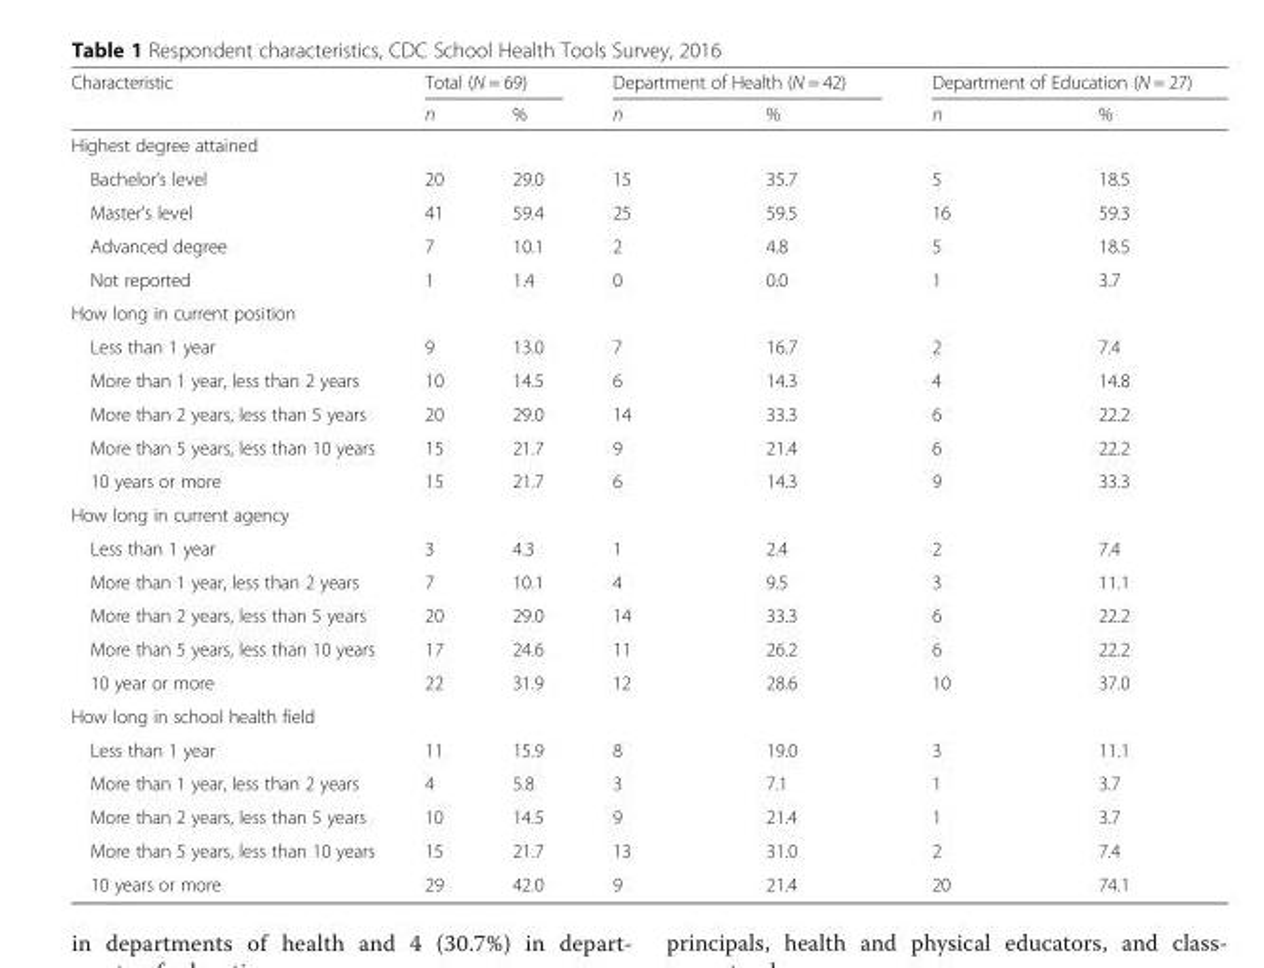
<table><thead><tr><td rowspan="2">Characteristic</td><td colspan="2">Total (N = 69)</td><td colspan="2">Department of Health (N = 42)</td><td colspan="2">Department of Education (N = 27)</td></tr><tr><td>n</td><td>%</td><td>n</td><td>%</td><td>n</td><td>%</td></tr></thead><tbody><tr><td colspan="7">Highest degree attained</td></tr><tr><td>Bachelor’s level</td><td>20</td><td>29.0</td><td>15</td><td>35.7</td><td>5</td><td>18.5</td></tr><tr><td>Master’s level</td><td>41</td><td>59.4</td><td>25</td><td>59.5</td><td>16</td><td>59.3</td></tr><tr><td>Advanced degree</td><td>7</td><td>10.1</td><td>2</td><td>4.8</td><td>5</td><td>18.5</td></tr><tr><td>Not reported</td><td>1</td><td>1.4</td><td>0</td><td>0.0</td><td>1</td><td>3.7</td></tr><tr><td colspan="7">How long in current position</td></tr><tr><td>Less than 1 year</td><td>9</td><td>13.0</td><td>7</td><td>16.7</td><td>2</td><td>7.4</td></tr><tr><td>More than 1 year, less than 2 years</td><td>10</td><td>14.5</td><td>6</td><td>14.3</td><td>4</td><td>14.8</td></tr><tr><td>More than 2 years, less than 5 years</td><td>20</td><td>29.0</td><td>14</td><td>33.3</td><td>6</td><td>22.2</td></tr><tr><td>More than 5 years, less than 10 years</td><td>15</td><td>21.7</td><td>9</td><td>21.4</td><td>6</td><td>22.2</td></tr><tr><td>10 years or more</td><td>15</td><td>21.7</td><td>6</td><td>14.3</td><td>9</td><td>33.3</td></tr><tr><td colspan="7">How long in current agency</td></tr><tr><td>Less than 1 year</td><td>3</td><td>4.3</td><td>1</td><td>2.4</td><td>2</td><td>7.4</td></tr><tr><td>More than 1 year, less than 2 years</td><td>7</td><td>10.1</td><td>4</td><td>9.5</td><td>3</td><td>11.1</td></tr><tr><td>More than 2 years, less than 5 years</td><td>20</td><td>29.0</td><td>14</td><td>33.3</td><td>6</td><td>22.2</td></tr><tr><td>More than 5 years, less than 10 years</td><td>17</td><td>24.6</td><td>11</td><td>26.2</td><td>6</td><td>22.2</td></tr><tr><td>10 year or more</td><td>22</td><td>31.9</td><td>12</td><td>28.6</td><td>10</td><td>37.0</td></tr><tr><td colspan="7">How long in school health field</td></tr><tr><td>Less than 1 year</td><td>11</td><td>15.9</td><td>8</td><td>19.0</td><td>3</td><td>11.1</td></tr><tr><td>More than 1 year, less than 2 years</td><td>4</td><td>5.8</td><td>3</td><td>7.1</td><td>1</td><td>3.7</td></tr><tr><td>More than 2 years, less than 5 years</td><td>10</td><td>14.5</td><td>9</td><td>21.4</td><td>1</td><td>3.7</td></tr><tr><td>More than 5 years, less than 10 years</td><td>15</td><td>21.7</td><td>13</td><td>31.0</td><td>2</td><td>7.4</td></tr><tr><td>10 years or more</td><td>29</td><td>42.0</td><td>9</td><td>21.4</td><td>20</td><td>74.1</td></tr></tbody></table>